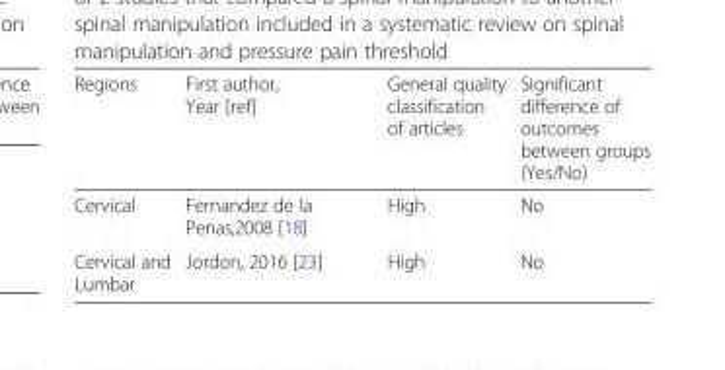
<table><thead><tr><td>Regions</td><td>First author, Year [ref]</td><td>General quality classification of articles</td><td>Significant difference of outcomes between groups (Yes/No)</td></tr></thead><tbody><tr><td>Cervical</td><td>Fernandez de la Penas,2008 [18]</td><td>High</td><td>No</td></tr><tr><td>Cervical and Lumbar</td><td>Jordon, 2016 [23]</td><td>High</td><td>No</td></tr></tbody></table>